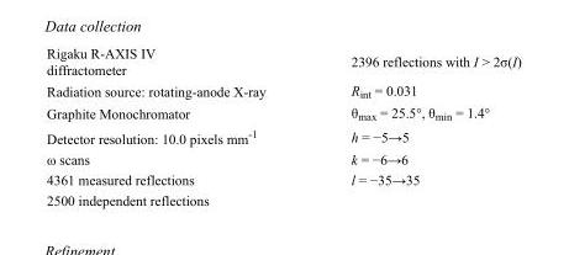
<table><tbody><tr><td>Rigaku R-AXIS IV diffractometer</td><td>2396 reflections with I &gt; 2σ(I)</td></tr><tr><td>Radiation source: rotating-anode X-ray</td><td>R<sub>int</sub> = 0.031</td></tr><tr><td>Graphite Monochromator</td><td>θ<sub>max</sub> = 25.5°, θ<sub>min</sub> = 1.4°</td></tr><tr><td>Detector resolution: 10.0 pixels mm<sup>-1</sup></td><td>h = −5→5</td></tr><tr><td>ω scans</td><td>k = −6→6</td></tr><tr><td>4361 measured reflections</td><td>l = −35→35</td></tr><tr><td>2500 independent reflections</td><td></td></tr></tbody></table>